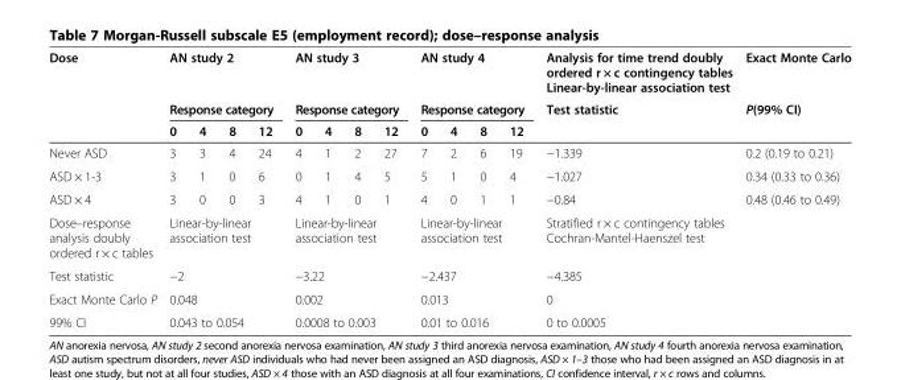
<table><thead><tr><td rowspan="3">Dose</td><td rowspan="2" colspan="4">AN study 2 Response category</td><td rowspan="2" colspan="4">AN study 3 Response category</td><td rowspan="2" colspan="4">AN study 4 Response category</td><td rowspan="3">Analysis for time trend doubly ordered r × c contingency tables Linear-by-linear association test Test statistic</td><td rowspan="3">Exact Monte Carlo P(99% CI)</td></tr><tr></tr><tr><td>0</td><td>4</td><td>8</td><td>12</td><td>0</td><td>4</td><td>8</td><td>12</td><td>0</td><td>4</td><td>8</td><td>12</td></tr></thead><tbody><tr><td>Never ASD</td><td>3</td><td>3</td><td>4</td><td>24</td><td>4</td><td>1</td><td>2</td><td>27</td><td>7</td><td>2</td><td>6</td><td>19</td><td>−1.339</td><td>0.2 (0.19 to 0.21)</td></tr><tr><td>ASD × 1-3</td><td>3</td><td>1</td><td>0</td><td>6</td><td>0</td><td>1</td><td>4</td><td>5</td><td>5</td><td>1</td><td>0</td><td>4</td><td>−1.027</td><td>0.34 (0.33 to 0.36)</td></tr><tr><td>ASD × 4</td><td>3</td><td>0</td><td>0</td><td>3</td><td>4</td><td>1</td><td>0</td><td>1</td><td>4</td><td>0</td><td>1</td><td>1</td><td>−0.84</td><td>0.48 (0.46 to 0.49)</td></tr><tr><td>Dose–response analysis doubly ordered r × c tables</td><td colspan="4">Linear-by-linear association test</td><td colspan="4">Linear-by-linear association test</td><td colspan="4">Linear-by-linear association test</td><td>Stratified r × c contingency tables Cochran-Mantel-Haenszel test</td><td></td></tr><tr><td>Test statistic</td><td colspan="4">−2</td><td colspan="4">−3.22</td><td colspan="4">−2.437</td><td>−4.385</td><td></td></tr><tr><td>Exact Monte Carlo P</td><td colspan="4">0.048</td><td colspan="4">0.002</td><td colspan="4">0.013</td><td>0</td><td></td></tr><tr><td>99% CI</td><td colspan="4">0.043 to 0.054</td><td colspan="4">0.0008 to 0.003</td><td colspan="4">0.01 to 0.016</td><td>0 to 0.0005</td><td></td></tr></tbody></table>